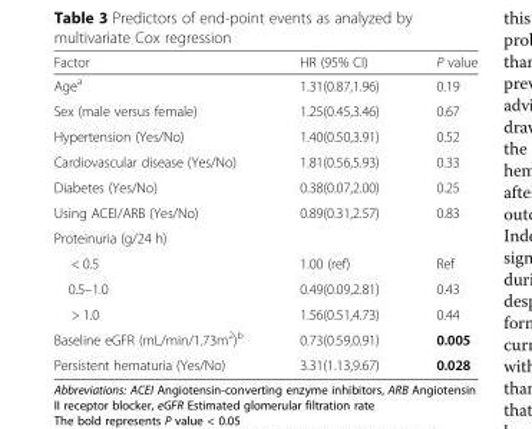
<table><thead><tr><td>Factor</td><td>HR (95% CI)</td><td>P value</td></tr></thead><tbody><tr><td>Age<sup>a</sup></td><td>1.31(0.87,1.96)</td><td>0.19</td></tr><tr><td>Sex (male versus female)</td><td>1.25(0.45,3.46)</td><td>0.67</td></tr><tr><td>Hypertension (Yes/No)</td><td>1.40(0.50,3.91)</td><td>0.52</td></tr><tr><td>Cardiovascular disease (Yes/No)</td><td>1.81(0.56,5.93)</td><td>0.33</td></tr><tr><td>Diabetes (Yes/No)</td><td>0.38(0.07,2.00)</td><td>0.25</td></tr><tr><td>Using ACEI/ARB (Yes/No)</td><td>0.89(0.31,2.57)</td><td>0.83</td></tr><tr><td colspan="3">Proteinuria (g/24 h)</td></tr><tr><td>&lt; 0.5</td><td>1.00 (ref)</td><td>Ref</td></tr><tr><td>0.5–1.0</td><td>0.49(0.09,2.81)</td><td>0.43</td></tr><tr><td>&gt; 1.0</td><td>1.56(0.51,4.73)</td><td>0.44</td></tr><tr><td>Baseline eGFR (mL/min/1.73m<sup>2</sup>)<sup>b</sup></td><td>0.73(0.59,0.91)</td><td>0.005</td></tr><tr><td>Persistent hematuria (Yes/No)</td><td>3.31(1.13,9.67)</td><td>0.028</td></tr></tbody></table>